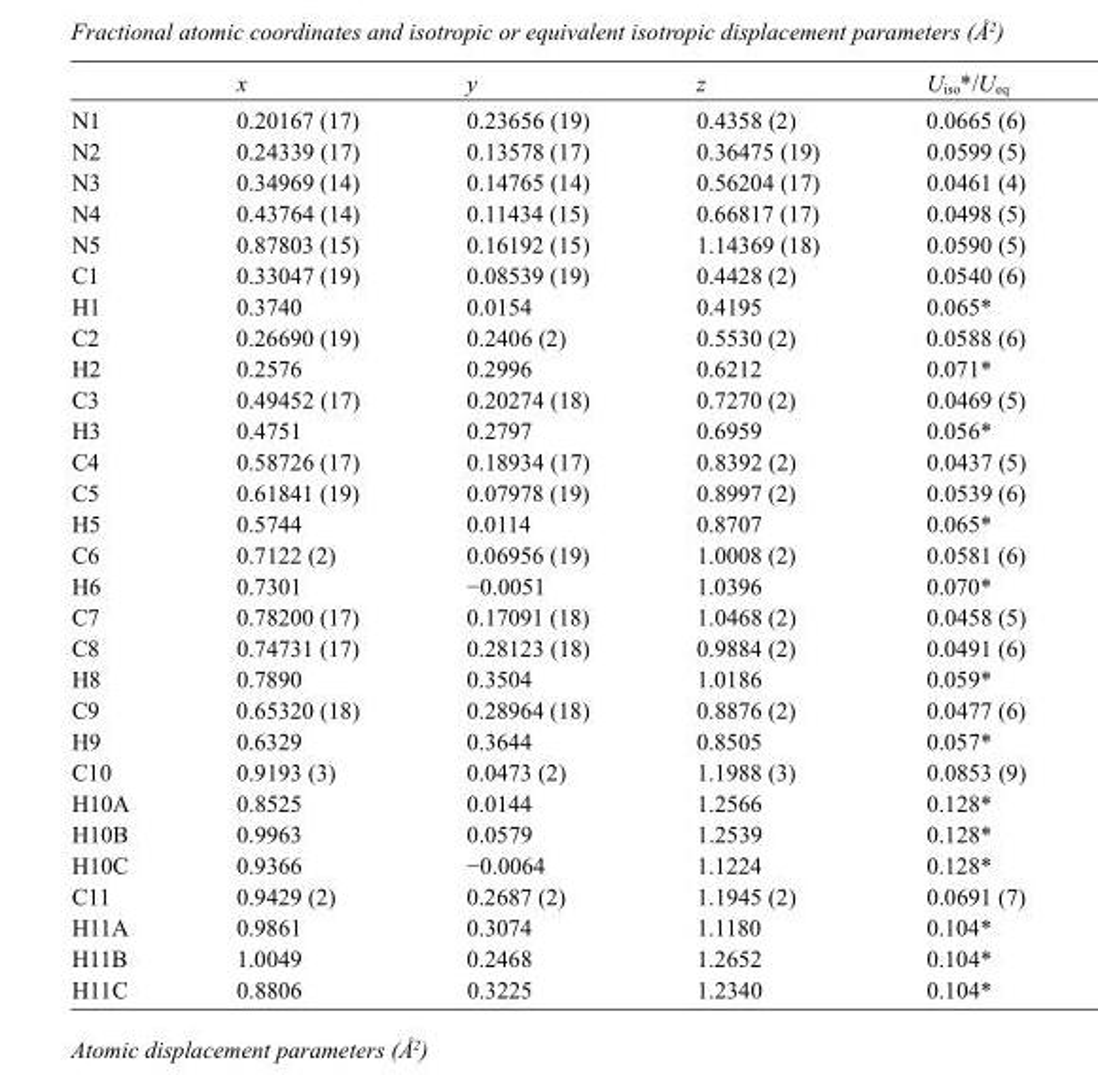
<table><thead><tr><td></td><td>x</td><td>y</td><td>z</td><td>U<sub>iso</sub>*/U<sub>eq</sub></td></tr></thead><tbody><tr><td>N1</td><td>0.20167 (17)</td><td>0.23656 (19)</td><td>0.4358 (2)</td><td>0.0665 (6)</td></tr><tr><td>N2</td><td>0.24339 (17)</td><td>0.13578 (17)</td><td>0.36475 (19)</td><td>0.0599 (5)</td></tr><tr><td>N3</td><td>0.34969 (14)</td><td>0.14765 (14)</td><td>0.56204 (17)</td><td>0.0461 (4)</td></tr><tr><td>N4</td><td>0.43764 (14)</td><td>0.11434 (15)</td><td>0.66817 (17)</td><td>0.0498 (5)</td></tr><tr><td>N5</td><td>0.87803 (15)</td><td>0.16192 (15)</td><td>1.14369 (18)</td><td>0.0590 (5)</td></tr><tr><td>C1</td><td>0.33047 (19)</td><td>0.08539 (19)</td><td>0.4428 (2)</td><td>0.0540 (6)</td></tr><tr><td>H1</td><td>0.3740</td><td>0.0154</td><td>0.4195</td><td>0.065*</td></tr><tr><td>C2</td><td>0.26690 (19)</td><td>0.2406 (2)</td><td>0.5530 (2)</td><td>0.0588 (6)</td></tr><tr><td>H2</td><td>0.2576</td><td>0.2996</td><td>0.6212</td><td>0.071*</td></tr><tr><td>C3</td><td>0.49452 (17)</td><td>0.20274 (18)</td><td>0.7270 (2)</td><td>0.0469 (5)</td></tr><tr><td>H3</td><td>0.4751</td><td>0.2797</td><td>0.6959</td><td>0.056*</td></tr><tr><td>C4</td><td>0.58726 (17)</td><td>0.18934 (17)</td><td>0.8392 (2)</td><td>0.0437 (5)</td></tr><tr><td>C5</td><td>0.61841 (19)</td><td>0.07978 (19)</td><td>0.8997 (2)</td><td>0.0539 (6)</td></tr><tr><td>H5</td><td>0.5744</td><td>0.0114</td><td>0.8707</td><td>0.065*</td></tr><tr><td>C6</td><td>0.7122 (2)</td><td>0.06956 (19)</td><td>1.0008 (2)</td><td>0.0581 (6)</td></tr><tr><td>H6</td><td>0.7301</td><td>−0.0051</td><td>1.0396</td><td>0.070*</td></tr><tr><td>C7</td><td>0.78200 (17)</td><td>0.17091 (18)</td><td>1.0468 (2)</td><td>0.0458 (5)</td></tr><tr><td>C8</td><td>0.74731 (17)</td><td>0.28123 (18)</td><td>0.9884 (2)</td><td>0.0491 (6)</td></tr><tr><td>H8</td><td>0.7890</td><td>0.3504</td><td>1.0186</td><td>0.059*</td></tr><tr><td>C9</td><td>0.65320 (18)</td><td>0.28964 (18)</td><td>0.8876 (2)</td><td>0.0477 (6)</td></tr><tr><td>H9</td><td>0.6329</td><td>0.3644</td><td>0.8505</td><td>0.057*</td></tr><tr><td>C10</td><td>0.9193 (3)</td><td>0.0473 (2)</td><td>1.1988 (3)</td><td>0.0853 (9)</td></tr><tr><td>H10A</td><td>0.8525</td><td>0.0144</td><td>1.2566</td><td>0.128*</td></tr><tr><td>H10B</td><td>0.9963</td><td>0.0579</td><td>1.2539</td><td>0.128*</td></tr><tr><td>H10C</td><td>0.9366</td><td>−0.0064</td><td>1.1224</td><td>0.128*</td></tr><tr><td>C11</td><td>0.9429 (2)</td><td>0.2687 (2)</td><td>1.1945 (2)</td><td>0.0691 (7)</td></tr><tr><td>H11A</td><td>0.9861</td><td>0.3074</td><td>1.1180</td><td>0.104*</td></tr><tr><td>H11B</td><td>1.0049</td><td>0.2468</td><td>1.2652</td><td>0.104*</td></tr><tr><td>H11C</td><td>0.8806</td><td>0.3225</td><td>1.2340</td><td>0.104*</td></tr></tbody></table>